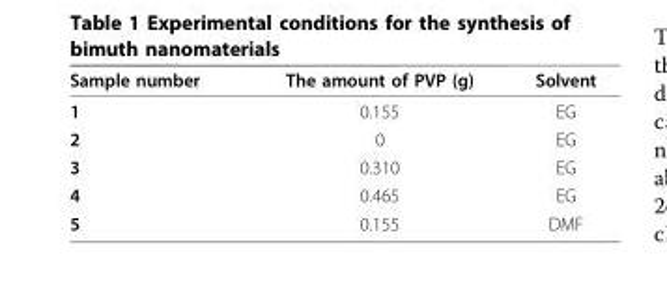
<table><thead><tr><td>Sample number</td><td>The amount of PVP (g)</td><td>Solvent</td></tr></thead><tbody><tr><td>1</td><td>0.155</td><td>EG</td></tr><tr><td>2</td><td>0</td><td>EG</td></tr><tr><td>3</td><td>0.310</td><td>EG</td></tr><tr><td>4</td><td>0.465</td><td>EG</td></tr><tr><td>5</td><td>0.155</td><td>DMF</td></tr></tbody></table>